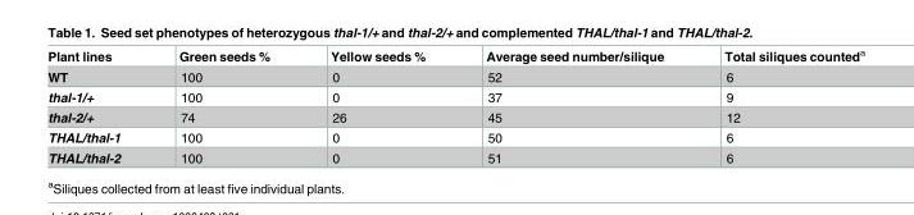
<table><thead><tr><td>Plant lines</td><td>Green seeds %</td><td>Yellow seeds %</td><td>Average seed number/silique</td><td>Total siliques counted<sup>a</sup></td></tr></thead><tbody><tr><td>WT</td><td>100</td><td>0</td><td>52</td><td>6</td></tr><tr><td>thal-1/+</td><td>100</td><td>0</td><td>37</td><td>9</td></tr><tr><td>thal-2/+</td><td>74</td><td>26</td><td>45</td><td>12</td></tr><tr><td>THAL/thal-1</td><td>100</td><td>0</td><td>50</td><td>6</td></tr><tr><td>THAL/thal-2</td><td>100</td><td>0</td><td>51</td><td>6</td></tr></tbody></table>